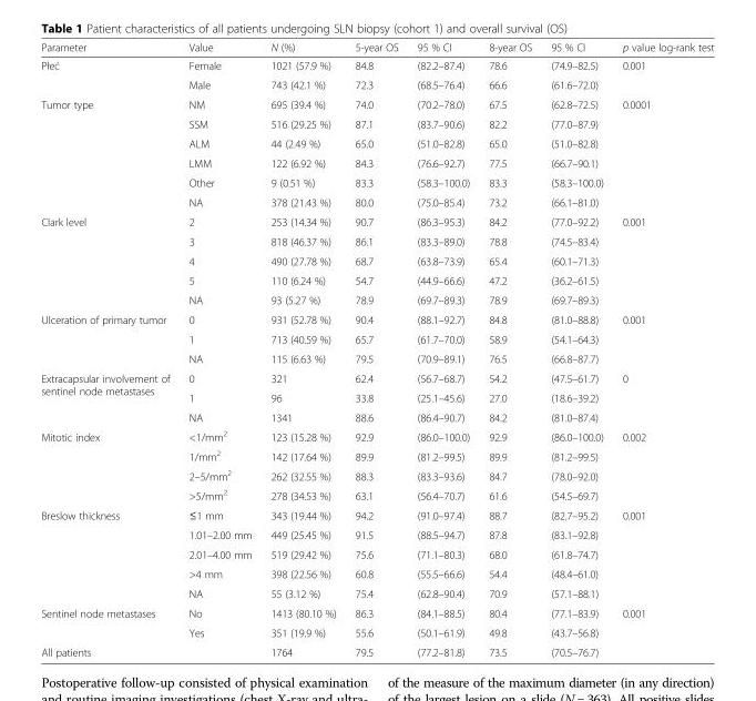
<table><thead><tr><td>Parameter</td><td>Value</td><td>N (%)</td><td>5-year OS</td><td>95 % CI</td><td>8-year OS</td><td>95 % CI</td><td>p value log-rank test</td></tr></thead><tbody><tr><td rowspan="2">Płeć</td><td>Female</td><td>1021 (57.9 %)</td><td>84.8</td><td>(82.2–87.4)</td><td>78.6</td><td>(74.9–82.5)</td><td rowspan="2">0.001</td></tr><tr><td>Male</td><td>743 (42.1 %)</td><td>72.3</td><td>(68.5–76.4)</td><td>66.6</td><td>(61.6–72.0)</td></tr><tr><td rowspan="6">Tumor type</td><td>NM</td><td>695 (39.4 %)</td><td>74.0</td><td>(70.2–78.0)</td><td>67.5</td><td>(62.8–72.5)</td><td rowspan="6">0.0001</td></tr><tr><td>SSM</td><td>516 (29.25 %)</td><td>87.1</td><td>(83.7–90.6)</td><td>82.2</td><td>(77.0–87.9)</td></tr><tr><td>ALM</td><td>44 (2.49 %)</td><td>65.0</td><td>(51.0–82.8)</td><td>65.0</td><td>(51.0–82.8)</td></tr><tr><td>LMM</td><td>122 (6.92 %)</td><td>84.3</td><td>(76.6–92.7)</td><td>77.5</td><td>(66.7–90.1)</td></tr><tr><td>Other</td><td>9 (0.51 %)</td><td>83.3</td><td>(58.3–100.0)</td><td>83.3</td><td>(58.3–100.0)</td></tr><tr><td>NA</td><td>378 (21.43 %)</td><td>80.0</td><td>(75.0–85.4)</td><td>73.2</td><td>(66.1–81.0)</td></tr><tr><td rowspan="5">Clark level</td><td>2</td><td>253 (14.34 %)</td><td>90.7</td><td>(86.3–95.3)</td><td>84.2</td><td>(77.0–92.2)</td><td rowspan="5">0.001</td></tr><tr><td>3</td><td>818 (46.37 %)</td><td>86.1</td><td>(83.3–89.0)</td><td>78.8</td><td>(74.5–83.4)</td></tr><tr><td>4</td><td>490 (27.78 %)</td><td>68.7</td><td>(63.8–73.9)</td><td>65.4</td><td>(60.1–71.3)</td></tr><tr><td>5</td><td>110 (6.24 %)</td><td>54.7</td><td>(44.9–66.6)</td><td>47.2</td><td>(36.2–61.5)</td></tr><tr><td>NA</td><td>93 (5.27 %)</td><td>78.9</td><td>(69.7–89.3)</td><td>78.9</td><td>(69.7–89.3)</td></tr><tr><td rowspan="3">Ulceration of primary tumor</td><td>0</td><td>931 (52.78 %)</td><td>90.4</td><td>(88.1–92.7)</td><td>84.8</td><td>(81.0–88.8)</td><td rowspan="3">0.001</td></tr><tr><td>1</td><td>713 (40.59 %)</td><td>65.7</td><td>(61.7–70.0)</td><td>58.9</td><td>(54.1–64.3)</td></tr><tr><td>NA</td><td>115 (6.63 %)</td><td>79.5</td><td>(70.9–89.1)</td><td>76.5</td><td>(66.8–87.7)</td></tr><tr><td rowspan="3">Extracapsular involvement of sentinel node metastases</td><td>0</td><td>321</td><td>62.4</td><td>(56.7–68.7)</td><td>54.2</td><td>(47.5–61.7)</td><td rowspan="3">0</td></tr><tr><td>1</td><td>96</td><td>33.8</td><td>(25.1–45.6)</td><td>27.0</td><td>(18.6–39.2)</td></tr><tr><td>NA</td><td>1341</td><td>88.6</td><td>(86.4–90.7)</td><td>84.2</td><td>(81.0–87.4)</td></tr><tr><td rowspan="4">Mitotic index</td><td>&lt;1/mm<sup>2</sup></td><td>123 (15.28 %)</td><td>92.9</td><td>(86.0–100.0)</td><td>92.9</td><td>(86.0–100.0)</td><td rowspan="4">0.002</td></tr><tr><td>1/mm<sup>2</sup></td><td>142 (17.64 %)</td><td>89.9</td><td>(81.2–99.5)</td><td>89.9</td><td>(81.2–99.5)</td></tr><tr><td>2–5/mm<sup>2</sup></td><td>262 (32.55 %)</td><td>88.3</td><td>(83.3–93.6)</td><td>84.7</td><td>(78.0–92.0)</td></tr><tr><td>&gt;5/mm<sup>2</sup></td><td>278 (34.53 %)</td><td>63.1</td><td>(56.4–70.7)</td><td>61.6</td><td>(54.5–69.7)</td></tr><tr><td rowspan="5">Breslow thickness</td><td>≤1 mm</td><td>343 (19.44 %)</td><td>94.2</td><td>(91.0–97.4)</td><td>88.7</td><td>(82.7–95.2)</td><td rowspan="5">0.001</td></tr><tr><td>1.01–2.00 mm</td><td>449 (25.45 %)</td><td>91.5</td><td>(88.5–94.7)</td><td>87.8</td><td>(83.1–92.8)</td></tr><tr><td>2.01–4.00 mm</td><td>519 (29.42 %)</td><td>75.6</td><td>(71.1–80.3)</td><td>68.0</td><td>(61.8–74.7)</td></tr><tr><td>&gt;4 mm</td><td>398 (22.56 %)</td><td>60.8</td><td>(55.5–66.6)</td><td>54.4</td><td>(48.4–61.0)</td></tr><tr><td>NA</td><td>55 (3.12 %)</td><td>75.4</td><td>(62.8–90.4)</td><td>70.9</td><td>(57.1–88.1)</td></tr><tr><td rowspan="2">Sentinel node metastases</td><td>No</td><td>1413 (80.10 %)</td><td>86.3</td><td>(84.1–88.5)</td><td>80.4</td><td>(77.1–83.9)</td><td rowspan="2">0.001</td></tr><tr><td>Yes</td><td>351 (19.9 %)</td><td>55.6</td><td>(50.1–61.9)</td><td>49.8</td><td>(43.7–56.8)</td></tr><tr><td colspan="2">All patients</td><td>1764</td><td>79.5</td><td>(77.2–81.8)</td><td>73.5</td><td>(70.5–76.7)</td><td></td></tr></tbody></table>